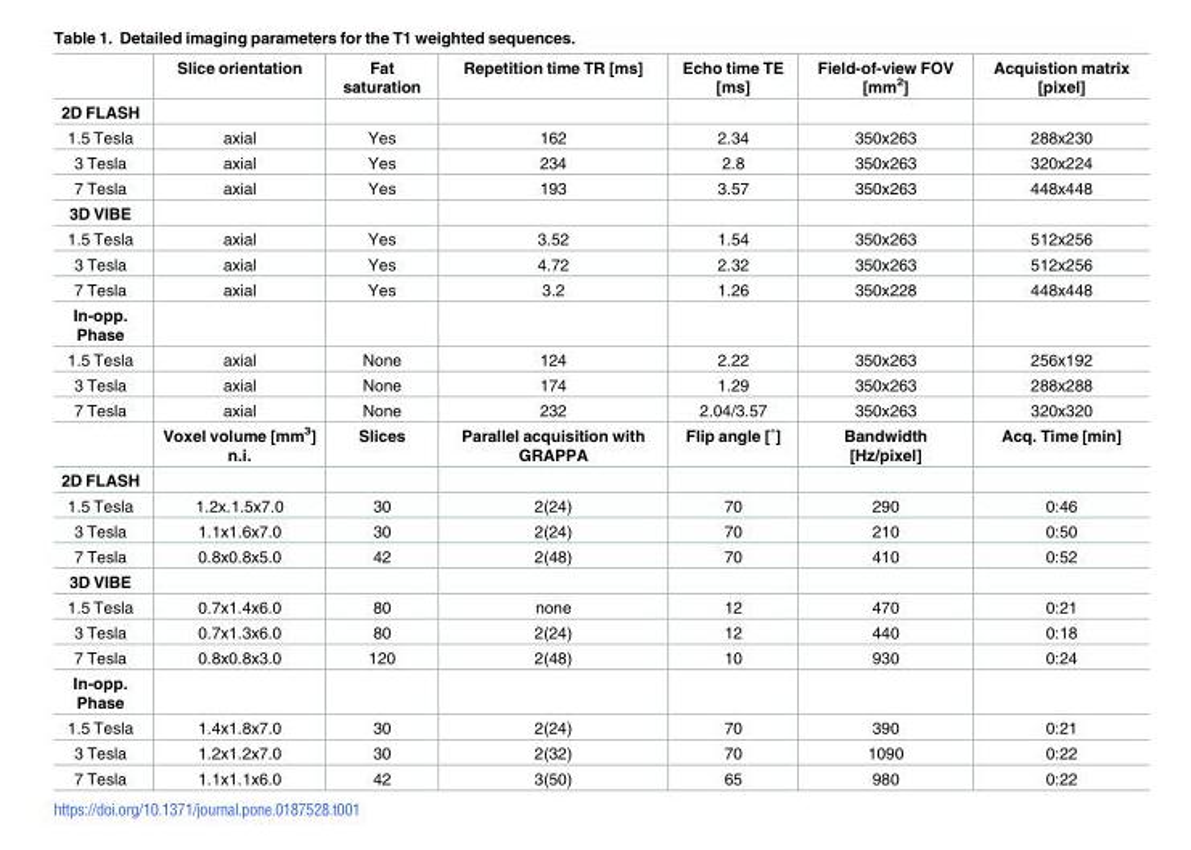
<table><thead><tr><td></td><td>Slice orientation</td><td>Fat saturation</td><td>Repetition time TR [ms]</td><td>Echo time TE [ms]</td><td>Field-of-view FOV [mm<sup>2</sup>]</td><td>Acquistion matrix [pixel]</td></tr></thead><tbody><tr><td colspan="7">2D FLASH</td></tr><tr><td>1.5 Tesla</td><td>axial</td><td>Yes</td><td>162</td><td>2.34</td><td>350x263</td><td>288x230</td></tr><tr><td>3 Tesla</td><td>axial</td><td>Yes</td><td>234</td><td>2.8</td><td>350x263</td><td>320x224</td></tr><tr><td>7 Tesla</td><td>axial</td><td>Yes</td><td>193</td><td>3.57</td><td>350x263</td><td>448x448</td></tr><tr><td colspan="7">3D VIBE</td></tr><tr><td>1.5 Tesla</td><td>axial</td><td>Yes</td><td>3.52</td><td>1.54</td><td>350x263</td><td>512x256</td></tr><tr><td>3 Tesla</td><td>axial</td><td>Yes</td><td>4.72</td><td>2.32</td><td>350x263</td><td>512x256</td></tr><tr><td>7 Tesla</td><td>axial</td><td>Yes</td><td>3.2</td><td>1.26</td><td>350x228</td><td>448x448</td></tr><tr><td colspan="7">In-opp. Phase</td></tr><tr><td>1.5 Tesla</td><td>axial</td><td>None</td><td>124</td><td>2.22</td><td>350x263</td><td>256x192</td></tr><tr><td>3 Tesla</td><td>axial</td><td>None</td><td>174</td><td>1.29</td><td>350x263</td><td>288x288</td></tr><tr><td rowspan="2">7 Tesla</td><td>axial</td><td>None</td><td>232</td><td>2.04/3.57</td><td>350x263</td><td>320x320</td></tr><tr><td>Voxel volume [mm<sup>3</sup>] n.i.</td><td>Slices</td><td>Parallel acquisition with GRAPPA</td><td>Flip angle [˚]</td><td>Bandwidth [Hz/pixel]</td><td>Acq. Time [min]</td></tr><tr><td colspan="7">2D FLASH</td></tr><tr><td>1.5 Tesla</td><td>1.2x.1.5x7.0</td><td>30</td><td>2(24)</td><td>70</td><td>290</td><td>0:46</td></tr><tr><td>3 Tesla</td><td>1.1x1.6x7.0</td><td>30</td><td>2(24)</td><td>70</td><td>210</td><td>0:50</td></tr><tr><td>7 Tesla</td><td>0.8x0.8x5.0</td><td>42</td><td>2(48)</td><td>70</td><td>410</td><td>0:52</td></tr><tr><td colspan="7">3D VIBE</td></tr><tr><td>1.5 Tesla</td><td>0.7x1.4x6.0</td><td>80</td><td>none</td><td>12</td><td>470</td><td>0:21</td></tr><tr><td>3 Tesla</td><td>0.7x1.3x6.0</td><td>80</td><td>2(24)</td><td>12</td><td>440</td><td>0:18</td></tr><tr><td>7 Tesla</td><td>0.8x0.8x3.0</td><td>120</td><td>2(48)</td><td>10</td><td>930</td><td>0:24</td></tr><tr><td colspan="7">In-opp. Phase</td></tr><tr><td>1.5 Tesla</td><td>1.4x1.8x7.0</td><td>30</td><td>2(24)</td><td>70</td><td>390</td><td>0:21</td></tr><tr><td>3 Tesla</td><td>1.2x1.2x7.0</td><td>30</td><td>2(32)</td><td>70</td><td>1090</td><td>0:22</td></tr><tr><td>7 Tesla</td><td>1.1x1.1x6.0</td><td>42</td><td>3(50)</td><td>65</td><td>980</td><td>0:22</td></tr></tbody></table>